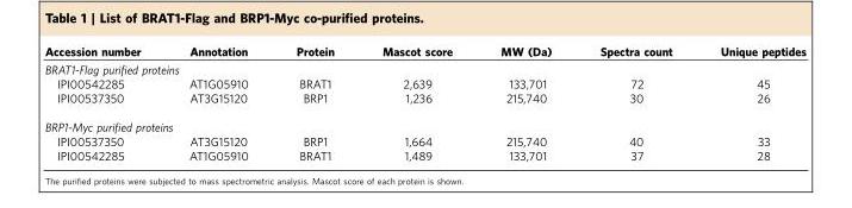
<table><thead><tr><td>Accession number</td><td>Annotation</td><td>Protein</td><td>Mascot score</td><td>MW (Da)</td><td>Spectra count</td><td>Unique peptides</td></tr></thead><tbody><tr><td colspan="7">BRAT1-Flag purified proteins</td></tr><tr><td>IPI00542285</td><td>AT1G05910</td><td>BRAT1</td><td>2,639</td><td>133,701</td><td>72</td><td>45</td></tr><tr><td>IPI00537350</td><td>AT3G15120</td><td>BRP1</td><td>1,236</td><td>215,740</td><td>30</td><td>26</td></tr><tr><td colspan="7">BRP1-Myc purified proteins</td></tr><tr><td>IPI00537350</td><td>AT3G15120</td><td>BRP1</td><td>1,664</td><td>215,740</td><td>40</td><td>33</td></tr><tr><td>IPI00542285</td><td>AT1G05910</td><td>BRAT1</td><td>1,489</td><td>133,701</td><td>37</td><td>28</td></tr></tbody></table>